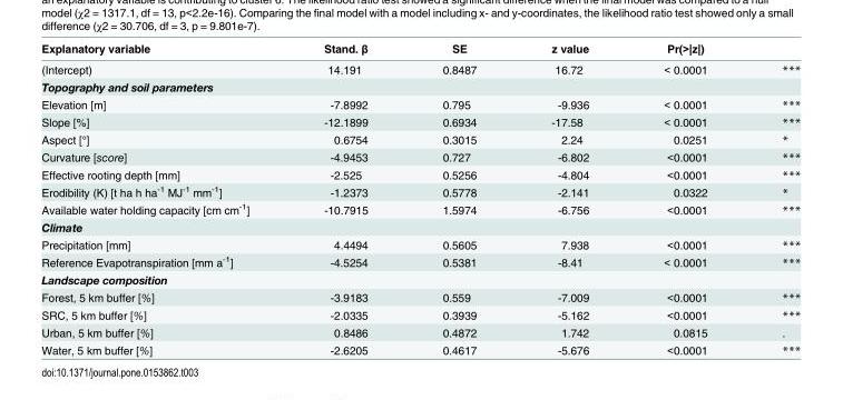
<table><thead><tr><td>Explanatory variable</td><td>Stand. β</td><td>SE</td><td>z value</td><td>Pr(&gt;|z|)</td><td></td></tr></thead><tbody><tr><td>(Intercept)</td><td>14.191</td><td>0.8487</td><td>16.72</td><td>&lt; 0.0001</td><td>***</td></tr><tr><td colspan="6">Topography and soil parameters</td></tr><tr><td>Elevation [m]</td><td>-7.8992</td><td>0.795</td><td>-9.936</td><td>&lt; 0.0001</td><td>***</td></tr><tr><td>Slope [%]</td><td>-12.1899</td><td>0.6934</td><td>-17.58</td><td>&lt; 0.0001</td><td>***</td></tr><tr><td>Aspect [°]</td><td>0.6754</td><td>0.3015</td><td>2.24</td><td>0.0251</td><td>*</td></tr><tr><td>Curvature [score]</td><td>-4.9453</td><td>0.727</td><td>-6.802</td><td>&lt;0.0001</td><td>***</td></tr><tr><td>Effective rooting depth [mm]</td><td>-2.525</td><td>0.5256</td><td>-4.804</td><td>&lt;0.0001</td><td>***</td></tr><tr><td>Erodibility (K) [t ha h ha<sup>-1</sup> MJ<sup>-1</sup> mm<sup>-1</sup>]</td><td>-1.2373</td><td>0.5778</td><td>-2.141</td><td>0.0322</td><td>*</td></tr><tr><td>Available water holding capacity [cm cm<sup>-1</sup>]</td><td>-10.7915</td><td>1.5974</td><td>-6.756</td><td>&lt;0.0001</td><td>***</td></tr><tr><td colspan="6">Climate</td></tr><tr><td>Precipitation [mm]</td><td>4.4494</td><td>0.5605</td><td>7.938</td><td>&lt;0.0001</td><td>***</td></tr><tr><td>Reference Evapotranspiration [mm a<sup>-1</sup>]</td><td>-4.5254</td><td>0.5381</td><td>-8.41</td><td>&lt; 0.0001</td><td>***</td></tr><tr><td colspan="6">Landscape composition</td></tr><tr><td>Forest, 5 km buffer [%]</td><td>-3.9183</td><td>0.559</td><td>-7.009</td><td>&lt;0.0001</td><td>***</td></tr><tr><td>SRC, 5 km buffer [%]</td><td>-2.0335</td><td>0.3939</td><td>-5.162</td><td>&lt;0.0001</td><td>***</td></tr><tr><td>Urban, 5 km buffer [%]</td><td>0.8486</td><td>0.4872</td><td>1.742</td><td>0.0815</td><td>.</td></tr><tr><td>Water, 5 km buffer [%]</td><td>-2.6205</td><td>0.4617</td><td>-5.676</td><td>&lt;0.0001</td><td>***</td></tr></tbody></table>